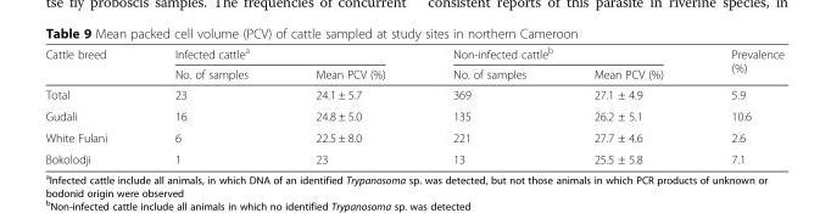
<table><thead><tr><td rowspan="2">Cattle breed</td><td colspan="2">Infected cattle<sup>a</sup></td><td colspan="2">Non-infected cattle<sup>b</sup></td><td rowspan="2">Prevalence (%)</td></tr><tr><td>No. of samples</td><td>Mean PCV (%)</td><td>No. of samples</td><td>Mean PCV (%)</td></tr></thead><tbody><tr><td>Total</td><td>23</td><td>24.1 ± 5.7</td><td>369</td><td>27.1 ± 4.9</td><td>5.9</td></tr><tr><td>Gudali</td><td>16</td><td>24.8 ± 5.0</td><td>135</td><td>26.2 ± 5.1</td><td>10.6</td></tr><tr><td>White Fulani</td><td>6</td><td>22.5 ± 8.0</td><td>221</td><td>27.7 ± 4.6</td><td>2.6</td></tr><tr><td>Bokolodji</td><td>1</td><td>23</td><td>13</td><td>25.5 ± 5.8</td><td>7.1</td></tr></tbody></table>